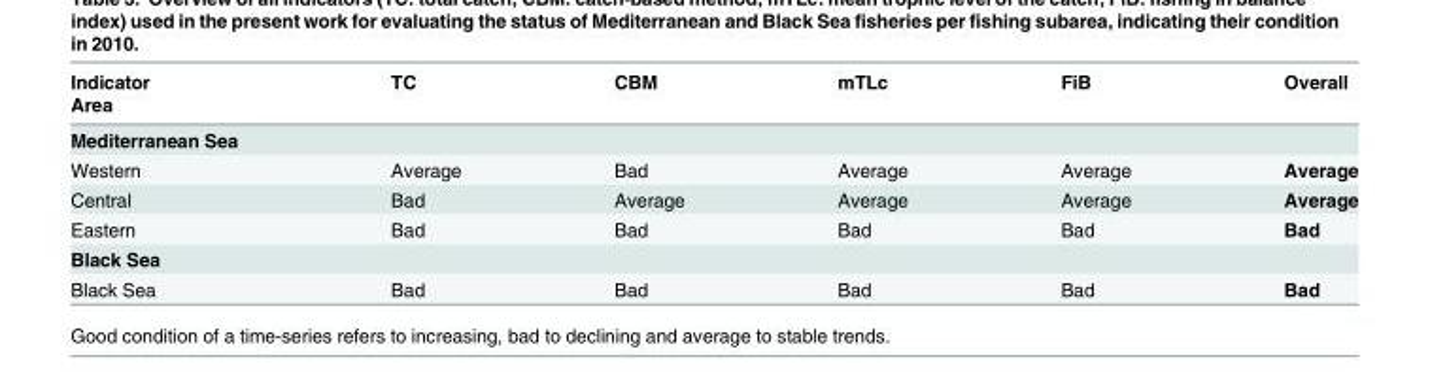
<table><thead><tr><td rowspan="2">Indicator Area</td><td rowspan="2">TC</td><td rowspan="2">CBM</td><td rowspan="2">mTLc</td><td rowspan="2">FiB</td><td rowspan="2">Overall</td></tr><tr></tr></thead><tbody><tr><td colspan="6">Mediterranean Sea</td></tr><tr><td>Western</td><td>Average</td><td>Bad</td><td>Average</td><td>Average</td><td>Average</td></tr><tr><td>Central</td><td>Bad</td><td>Average</td><td>Average</td><td>Average</td><td>Average</td></tr><tr><td>Eastern</td><td>Bad</td><td>Bad</td><td>Bad</td><td>Bad</td><td>Bad</td></tr><tr><td colspan="6">Black Sea</td></tr><tr><td>Black Sea</td><td>Bad</td><td>Bad</td><td>Bad</td><td>Bad</td><td>Bad</td></tr></tbody></table>